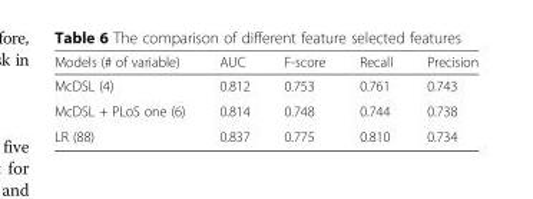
<table><thead><tr><td>Models (# of variable)</td><td>AUC</td><td>F-score</td><td>Recall</td><td>Precision</td></tr></thead><tbody><tr><td>McDSL (4)</td><td>0.812</td><td>0.753</td><td>0.761</td><td>0.743</td></tr><tr><td>McDSL + PLoS one (6)</td><td>0.814</td><td>0.748</td><td>0.744</td><td>0.738</td></tr><tr><td>LR (88)</td><td>0.837</td><td>0.775</td><td>0.810</td><td>0.734</td></tr></tbody></table>